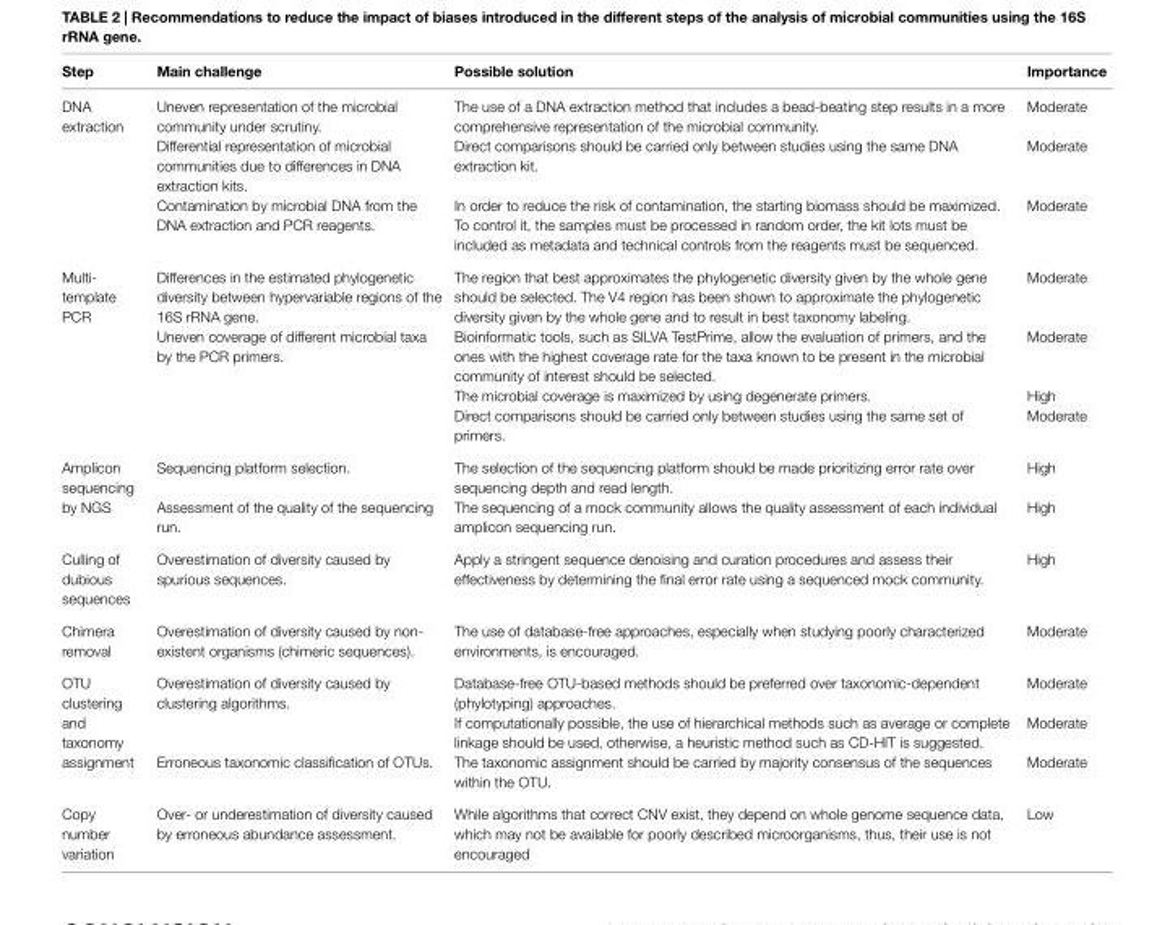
<table><thead><tr><td>Step</td><td>Main challenge</td><td>Possible solution</td><td>importance</td></tr></thead><tbody><tr><td rowspan="3">DNA extraction</td><td>Uneven representation of the microbial community under scrutiny.</td><td>The use of a DNA extraction method that includes a bead-beating step results in a more comprehensive representation of the microbial community.</td><td>Moderate</td></tr><tr><td>Differential representation of microbial communities due to differences in DNA extraction kits.</td><td>Direct comparisons should be carried only between studies using the same DNA extraction kit.</td><td>Moderate</td></tr><tr><td>Contamination by microbial DNA from the DNA extraction and PCR reagents.</td><td>In order to reduce the risk of contamination, the starting biomass should be maximized. To control it, the samples must be processed in random order, the kit lots must be included as metadata and technical controls from the reagents must be sequenced.</td><td>Moderate</td></tr><tr><td rowspan="4">Multi- template PCR</td><td>Differences in the estimated phylogenetic diversity between hypervariable regions of the 16S rRNA gene.</td><td>The region that best approximates the phylogenetic diversity given by the whole gene should be selected. The V4 region has been shown to approximate the phylogenetic diversity given by the whole gene and to result in best taxonomy labeling.</td><td>Moderate</td></tr><tr><td rowspan="3">Uneven coverage of different microbial taxa by the PCR primers.</td><td>Bioinformatic tools, such as SILVA TestPrime, allow the evaluation of primers, and the ones with the highest coverage rate for the taxa known to be present in the microbial community of interest should be selected.</td><td>Moderate</td></tr><tr><td>The microbial coverage is maximized by using degenerate primers.</td><td>High</td></tr><tr><td>Direct comparisons should be carried only between studies using the same set of primers.</td><td>Moderate</td></tr><tr><td rowspan="2">Amplicon sequencing by NGS</td><td>Sequencing platform selection.</td><td>The selection of the sequencing platform should be made prioritizing error rate over sequencing depth and read length.</td><td>High</td></tr><tr><td>Assessment of the quality of the sequencing run.</td><td>The sequencing of a mock community allows the quality assessment of each individual amplicon sequencing run.</td><td>High</td></tr><tr><td>Culling of dubious sequences</td><td>Overestimation of diversity caused by spurious sequences.</td><td>Apply a stringent sequence denoising and curation procedures and assess their effectiveness by determining the final error rate using a sequenced mock community.</td><td>High</td></tr><tr><td>Chimera removal</td><td>Overestimation of diversity caused by non- existent organisms (chimeric sequences).</td><td>The use of database-free approaches, especially when studying poorly characterized environments, is encouraged.</td><td>Moderate</td></tr><tr><td rowspan="3">OTU clustering and taxonomy assignment</td><td rowspan="2">Overestimation of diversity caused by clustering algorithms.</td><td>Database-free OTU-based methods should be preferred over taxonomic-dependent (phylotyping) approaches.</td><td>Moderate</td></tr><tr><td>If computationally possible, the use of hierarchical methods such as average or complete linkage should be used, otherwise, a heuristic method such as CD-HIT is suggested.</td><td>Moderate</td></tr><tr><td>Erroneous taxonomic classification of OTUs.</td><td>The taxonomic assignment should be carried by majority consensus of the sequences within the OTU.</td><td>Moderate</td></tr><tr><td>Copy number variation</td><td>Over- or underestimation of diversity caused by erroneous abundance assessment.</td><td>While algorithms that correct CNV exist, they depend on whole genome sequence data, which may not be available for poorly described microorganisms, thus, their use is not encouraged</td><td>Low</td></tr></tbody></table>